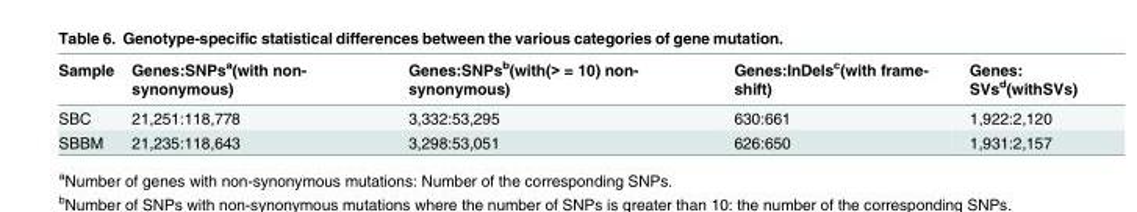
<table><thead><tr><td>Sample</td><td>Genes:SNPs<sup>a</sup>(with non- synonymous)</td><td>Genes:SNPs<sup>b</sup>(with(&gt; = 10) non- synonymous)</td><td>Genes:InDels<sup>c</sup>(with frame- shift)</td><td>Genes: SVs<sup>d</sup>(withSVs)</td></tr></thead><tbody><tr><td>SBC</td><td>21,251:118,778</td><td>3,332:53,295</td><td>630:661</td><td>1,922:2,120</td></tr><tr><td>SBBM</td><td>21,235:118,643</td><td>3,298:53,051</td><td>626:650</td><td>1,931:2,157</td></tr></tbody></table>